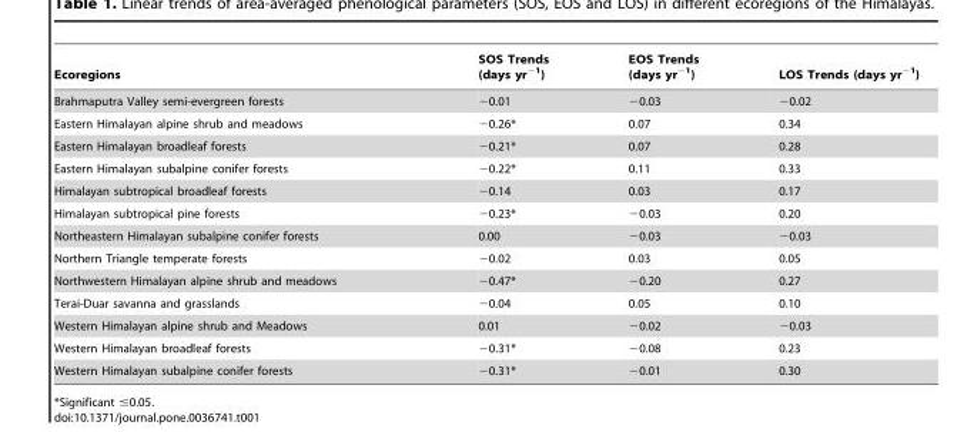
<table><thead><tr><td>Ecoregions</td><td>SOS Trends (days yr<sup>−1</sup>)</td><td>EOS Trends (days yr<sup>−1</sup>)</td><td>LOS Trends (days yr<sup>−1</sup>)</td></tr></thead><tbody><tr><td>Brahmaputra Valley semi-evergreen forests</td><td>−0.01</td><td>−0.03</td><td>−0.02</td></tr><tr><td>Eastern Himalayan alpine shrub and meadows</td><td>−0.26*</td><td>0.07</td><td>0.34</td></tr><tr><td>Eastern Himalayan broadleaf forests</td><td>−0.21*</td><td>0.07</td><td>0.28</td></tr><tr><td>Eastern Himalayan subalpine conifer forests</td><td>−0.22*</td><td>0.11</td><td>0.33</td></tr><tr><td>Himalayan subtropical broadleaf forests</td><td>−0.14</td><td>0.03</td><td>0.17</td></tr><tr><td>Himalayan subtropical pine forests</td><td>−0.23*</td><td>−0.03</td><td>0.20</td></tr><tr><td>Northeastern Himalayan subalpine conifer forests</td><td>0.00</td><td>−0.03</td><td>−0.03</td></tr><tr><td>Northern Triangle temperate forests</td><td>−0.02</td><td>0.03</td><td>0.05</td></tr><tr><td>Northwestern Himalayan alpine shrub and meadows</td><td>−0.47*</td><td>−0.20</td><td>0.27</td></tr><tr><td>Terai-Duar savanna and grasslands</td><td>−0.04</td><td>0.05</td><td>0.10</td></tr><tr><td>Western Himalayan alpine shrub and Meadows</td><td>0.01</td><td>−0.02</td><td>−0.03</td></tr><tr><td>Western Himalayan broadleaf forests</td><td>−0.31*</td><td>−0.08</td><td>0.23</td></tr><tr><td>Western Himalayan subalpine conifer forests</td><td>−0.31*</td><td>−0.01</td><td>0.30</td></tr></tbody></table>